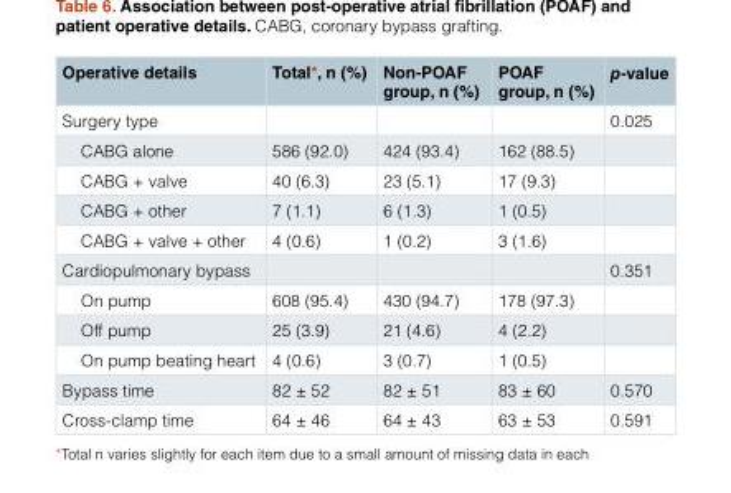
<table><thead><tr><td>Operative details</td><td>Total*, n (%)</td><td>Non-POAF group, n (%)</td><td>POAF group, n (%)</td><td>p-value</td></tr></thead><tbody><tr><td>Surgery type</td><td></td><td></td><td></td><td>0.025</td></tr><tr><td>CABG alone</td><td>586 (92.0)</td><td>424 (93.4)</td><td>162 (88.5)</td><td></td></tr><tr><td>CABG + valve</td><td>40 (6.3)</td><td>23 (5.1)</td><td>17 (9.3)</td><td></td></tr><tr><td>CABG + other</td><td>7 (1.1)</td><td>6 (1.3)</td><td>1 (0.5)</td><td></td></tr><tr><td>CABG + valve + other</td><td>4 (0.6)</td><td>1 (0.2)</td><td>3 (1.6)</td><td></td></tr><tr><td>Cardiopulmonary bypass</td><td></td><td></td><td></td><td>0.351</td></tr><tr><td>On pump</td><td>608 (95.4)</td><td>430 (94.7)</td><td>178 (97.3)</td><td></td></tr><tr><td>Off pump</td><td>25 (3.9)</td><td>21 (4.6)</td><td>4 (2.2)</td><td></td></tr><tr><td>On pump beating heart</td><td>4 (0.6)</td><td>3 (0.7)</td><td>1 (0.5)</td><td></td></tr><tr><td>Bypass time</td><td>82 ± 52</td><td>82 ± 51</td><td>83 ± 60</td><td>0.570</td></tr><tr><td>Cross-clamp time</td><td>64 ± 46</td><td>64 ± 43</td><td>63 ± 53</td><td>0.591</td></tr></tbody></table>